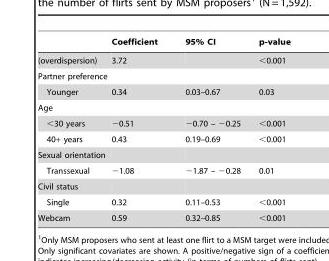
<table><thead><tr><td></td><td>Coefficient</td><td>95% CI</td><td>p-value</td></tr></thead><tbody><tr><td>(overdispersion)</td><td>3.72</td><td></td><td>&lt;0.001</td></tr><tr><td colspan="4">Partner preference</td></tr><tr><td>Younger</td><td>0.34</td><td>0.03–0.67</td><td>0.03</td></tr><tr><td colspan="4">Age</td></tr><tr><td>&lt;30 years</td><td>−0.51</td><td>−0.70 – −0.25</td><td>&lt;0.001</td></tr><tr><td>40+ years</td><td>0.43</td><td>0.19–0.69</td><td>&lt;0.001</td></tr><tr><td colspan="4">Sexual orientation</td></tr><tr><td>Transsexual</td><td>−1.08</td><td>−1.87 – −0.28</td><td>0.01</td></tr><tr><td colspan="4">Civil status</td></tr><tr><td>Single</td><td>0.32</td><td>0.11–0.53</td><td>&lt;0.001</td></tr><tr><td>Webcam</td><td>0.59</td><td>0.32–0.85</td><td>&lt;0.001</td></tr></tbody></table>